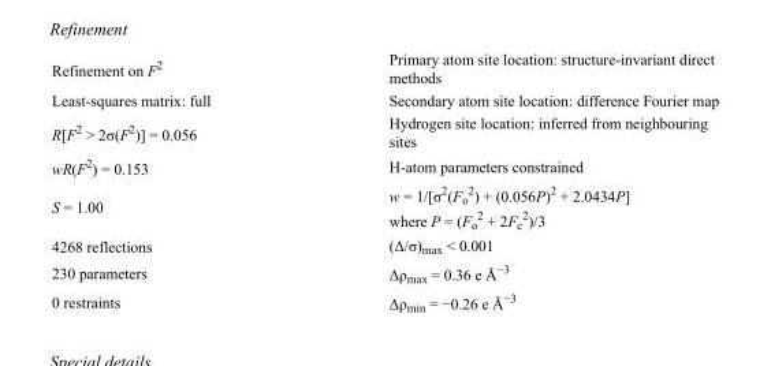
<table><tbody><tr><td>Refinement on F<sup>2</sup></td><td>Primary atom site location: structure-invariant direct methods</td></tr><tr><td>Least-squares matrix: full</td><td>Secondary atom site location: difference Fourier map</td></tr><tr><td>R[F<sup>2</sup> &gt; 2σ(F<sup>2</sup>)] = 0.056</td><td>Hydrogen site location: inferred from neighbouring sites</td></tr><tr><td>wR(F<sup>2</sup>) = 0.153</td><td>H-atom parameters constrained</td></tr><tr><td>S = 1.00</td><td>w = 1/[σ<sup>2</sup>(F<sub>o</sub> <sup>2</sup>) + (0.056P)<sup>2</sup> + 2.0434P] where P = (F<sub>o</sub> <sup>2</sup> + 2F<sub>c</sub> <sup>2</sup>)/3</td></tr><tr><td>4268 reflections</td><td>(Δ/σ)<sub>max</sub> &lt; 0.001</td></tr><tr><td>230 parameters</td><td>Δρ<sub>max</sub> = 0.36 e Å<sup>−3</sup></td></tr><tr><td>0 restraints</td><td>Δρ<sub>min</sub> = −0.26 e Å<sup>−3</sup></td></tr></tbody></table>